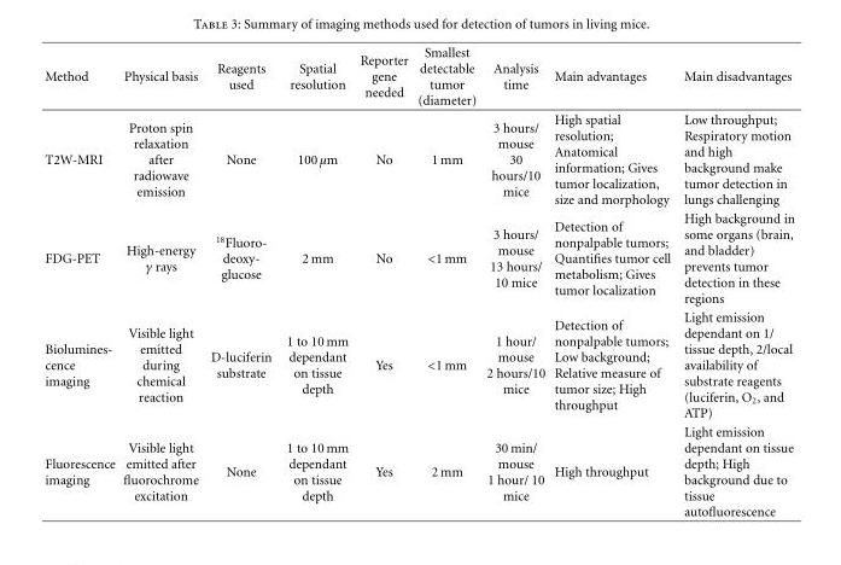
<table><thead><tr><td>Method</td><td>Physical basis</td><td>Reagents used</td><td>Spatial resolution</td><td>Reporter gene needed</td><td>Smallest detectable tumor (diameter)</td><td>Analysis time</td><td>Main advantages</td><td>Main disadvantages</td></tr></thead><tbody><tr><td>T2W-MRI</td><td>Proton spin relaxation after radiowave emission</td><td>None</td><td>100 μm</td><td>No</td><td>1 mm</td><td>3 hours/ mouse 30 hours/10 mice</td><td>High spatial resolution; Anatomical information; Gives tumor localization, size and morphology</td><td>Low throughput; Respiratory motion and high background make tumor detection in lungs challenging</td></tr><tr><td>FDG-PET</td><td>High-energy γ rays</td><td><sup>18</sup>Fluoro- deoxy- glucose</td><td>2 mm</td><td>No</td><td>&lt;1 mm</td><td>3 hours/ mouse 13 hours/ 10 mice</td><td>Detection of nonpalpable tumors; Quantifies tumor cell metabolism; Gives tumor localization</td><td>High background in some organs (brain, and bladder) prevents tumor detection in these regions</td></tr><tr><td>Biolumines- cence imaging</td><td>Visible light emitted during chemical reaction</td><td>D-luciferin substrate</td><td>1 to 10 mm dependant on tissue depth</td><td>Yes</td><td>&lt;1 mm</td><td>1 hour/ mouse 2 hours/10 mice</td><td>Detection of nonpalpable tumors; Low background; Relative measure of tumor size; High throughput</td><td>Light emission dependant on 1/ tissue depth, 2/local availability of substrate reagents (luciferin, O<sub>2</sub>, and ATP)</td></tr><tr><td>Fluorescence imaging</td><td>Visible light emitted after fluorochrome excitation</td><td>None</td><td>1 to 10 mm dependant on tissue depth</td><td>Yes</td><td>2 mm</td><td>30 min/ mouse 1 hour/ 10 mice</td><td>High throughput</td><td>Light emission dependant on tissue depth; High background due to tissue autofluorescence</td></tr></tbody></table>